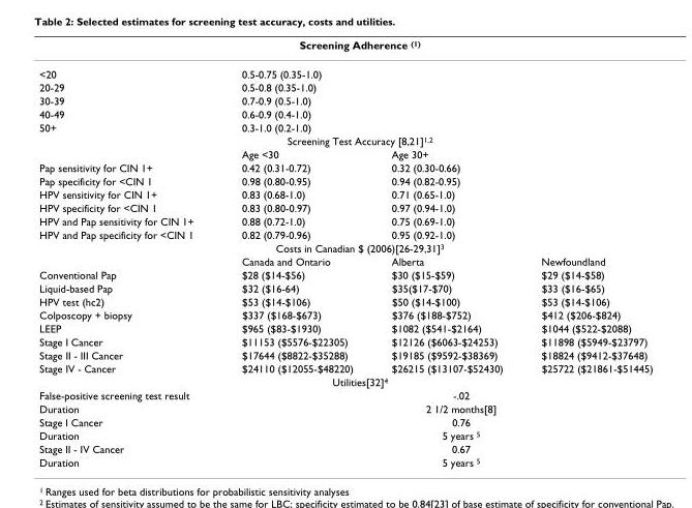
<table><thead><tr><td colspan="4">Screening Adherence <sup>(1)</sup></td></tr><tr><td>&lt;20</td><td>0.5-0.75 (0.35-1.0)</td><td></td><td></td></tr></thead><tbody><tr><td>20-29</td><td>0.5-0.8 (0.35-1.0)</td><td></td><td></td></tr><tr><td>30-39</td><td>0.7-0.9 (0.5-1.0)</td><td></td><td></td></tr><tr><td>40-49</td><td>0.6-0.9 (0.4-1.0)</td><td></td><td></td></tr><tr><td>50+</td><td>0.3-1.0 (0.2-1.0)</td><td></td><td></td></tr><tr><td colspan="4">Screening Test Accuracy [8,21]<sup>1,2</sup></td></tr><tr><td></td><td>Age &lt;30</td><td>Age 30+</td><td></td></tr><tr><td>Pap sensitivity for CIN 1+</td><td>0.42 (0.31-0.72)</td><td>0.32 (0.30-0.66)</td><td></td></tr><tr><td>Pap specificity for &lt;CIN 1</td><td>0.98 (0.80-0.95)</td><td>0.94 (0.82-0.95)</td><td></td></tr><tr><td>HPV sensitivity for CIN 1+</td><td>0.83 (0.68-1.0)</td><td>0.71 (0.65-1.0)</td><td></td></tr><tr><td>HPV specificity for &lt;CIN 1</td><td>0.83 (0.80-0.97)</td><td>0.97 (0.94-1.0)</td><td></td></tr><tr><td>HPV and Pap sensitivity for CIN 1+</td><td>0.88 (0.72-1.0)</td><td>0.75 (0.69-1.0)</td><td></td></tr><tr><td>HPV and Pap specificity for &lt;CIN 1</td><td>0.82 (0.79-0.96)</td><td>0.95 (0.92-1.0)</td><td></td></tr><tr><td colspan="4">Costs in Canadian $ (2006)[26-29,31]<sup>3</sup></td></tr><tr><td></td><td>Canada and Ontario</td><td>Alberta</td><td>Newfoundland</td></tr><tr><td>Conventional Pap</td><td>$28 ($14-$56)</td><td>$30 ($15-$59)</td><td>$29 ($14-$58)</td></tr><tr><td>Liquid-based Pap</td><td>$32 ($16-64)</td><td>$35($17-$70)</td><td>$33 ($16-$65)</td></tr><tr><td>HPV test (hc2)</td><td>$53 ($14-$106)</td><td>$50 ($14-$100)</td><td>$53 ($14-$106)</td></tr><tr><td>Colposcopy + biopsy</td><td>$337 ($168-$673)</td><td>$376 ($188-$752)</td><td>$412 ($206-$824)</td></tr><tr><td>LEEP</td><td>$965 ($83-$1930)</td><td>$1082 ($541-$2164)</td><td>$1044 ($522-$2088)</td></tr><tr><td>Stage I Cancer</td><td>$11153 ($5576-$22305)</td><td>$12126 ($6063-$24253)</td><td>$11898 ($5949-$23797)</td></tr><tr><td>Stage II - III Cancer</td><td>$17644 ($8822-$35288)</td><td>$19185 ($9592-$38369)</td><td>$18824 ($9412-$37648)</td></tr><tr><td>Stage IV - Cancer</td><td>$24110 ($12055-$48220)</td><td>$26215 ($13107-$52430)</td><td>$25722 ($21861-$51445)</td></tr><tr><td colspan="4">Utilities[32]<sup>4</sup></td></tr><tr><td>False-positive screening test result</td><td colspan="3">-.02</td></tr><tr><td>Duration</td><td colspan="3">2 1/2 months[8]</td></tr><tr><td>Stage I Cancer</td><td colspan="3">0.76</td></tr><tr><td>Duration</td><td colspan="3">5 years <sup>5</sup></td></tr><tr><td>Stage II - IV Cancer</td><td colspan="3">0.67</td></tr><tr><td>Duration</td><td colspan="3">5 years <sup>5</sup></td></tr></tbody></table>